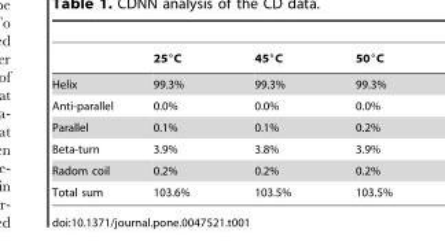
<table><thead><tr><td></td><td>25°C</td><td>45°C</td><td>50°C</td></tr></thead><tbody><tr><td>Helix</td><td>99.3%</td><td>99.3%</td><td>99.3%</td></tr><tr><td>Anti-parallel</td><td>0.0%</td><td>0.0%</td><td>0.0%</td></tr><tr><td>Parallel</td><td>0.1%</td><td>0.1%</td><td>0.2%</td></tr><tr><td>Beta-turn</td><td>3.9%</td><td>3.8%</td><td>3.9%</td></tr><tr><td>Radom coil</td><td>0.2%</td><td>0.2%</td><td>0.2%</td></tr><tr><td>Total sum</td><td>103.6%</td><td>103.5%</td><td>103.5%</td></tr></tbody></table>